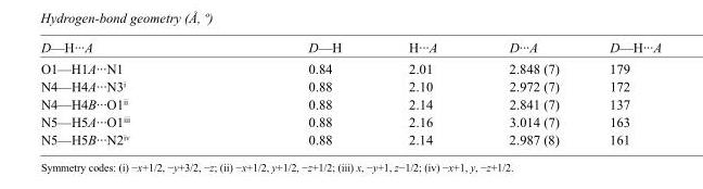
<table><tbody><tr><td>D—H···A</td><td>D—H</td><td>H···A</td><td>D···A</td><td>D—H···A</td></tr><tr><td>O1—H1A···N1</td><td>0.84</td><td>2.01</td><td>2.848 (7)</td><td>179</td></tr><tr><td>N4—H4A···N3<sup>i</sup></td><td>0.88</td><td>2.10</td><td>2.972 (7)</td><td>172</td></tr><tr><td>N4—H4B···O1<sup>ii</sup></td><td>0.88</td><td>2.14</td><td>2.841 (7)</td><td>137</td></tr><tr><td>N5—H5A···O1<sup>iii</sup></td><td>0.88</td><td>2.16</td><td>3.014 (7)</td><td>163</td></tr><tr><td>N5—H5B···N2<sup>iv</sup></td><td>0.88</td><td>2.14</td><td>2.987 (8)</td><td>161</td></tr></tbody></table>